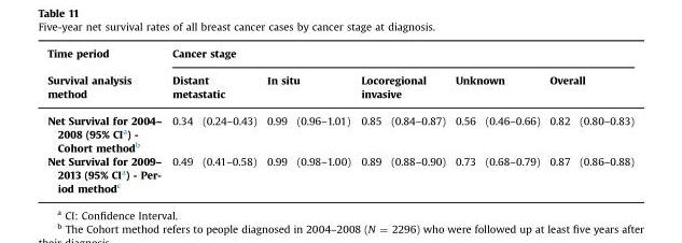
<table><thead><tr><td rowspan="3">Time period Survival analysis method Net Survival for 2004– 2008 (95% CI<sup>a</sup>) - Cohort method<sup>b</sup></td><td colspan="10">Cancer stage</td></tr><tr><td colspan="2">Distant metastatic</td><td colspan="2">Ιn situ</td><td colspan="2">Locoregional invasive</td><td colspan="2">Unknown</td><td colspan="2">Overall</td></tr><tr><td>0.34</td><td>(0.24–0.43)</td><td>0.99</td><td>(0.96–1.01)</td><td>0.85</td><td>(0.84–0.87)</td><td>0.56</td><td>(0.46–0.66)</td><td>0.82</td><td>(0.80–0.83)</td></tr></thead><tbody><tr><td>Net Survival for 2009– 2013 (95% CIa) - Per- iod methodc</td><td>0.49</td><td>(0.41–0.58)</td><td>0.99</td><td>(0.98–1.00)</td><td>0.89</td><td>(0.88–0.90)</td><td>0.73</td><td>(0.68–0.79)</td><td>0.87</td><td>(0.86–0.88)</td></tr></tbody></table>